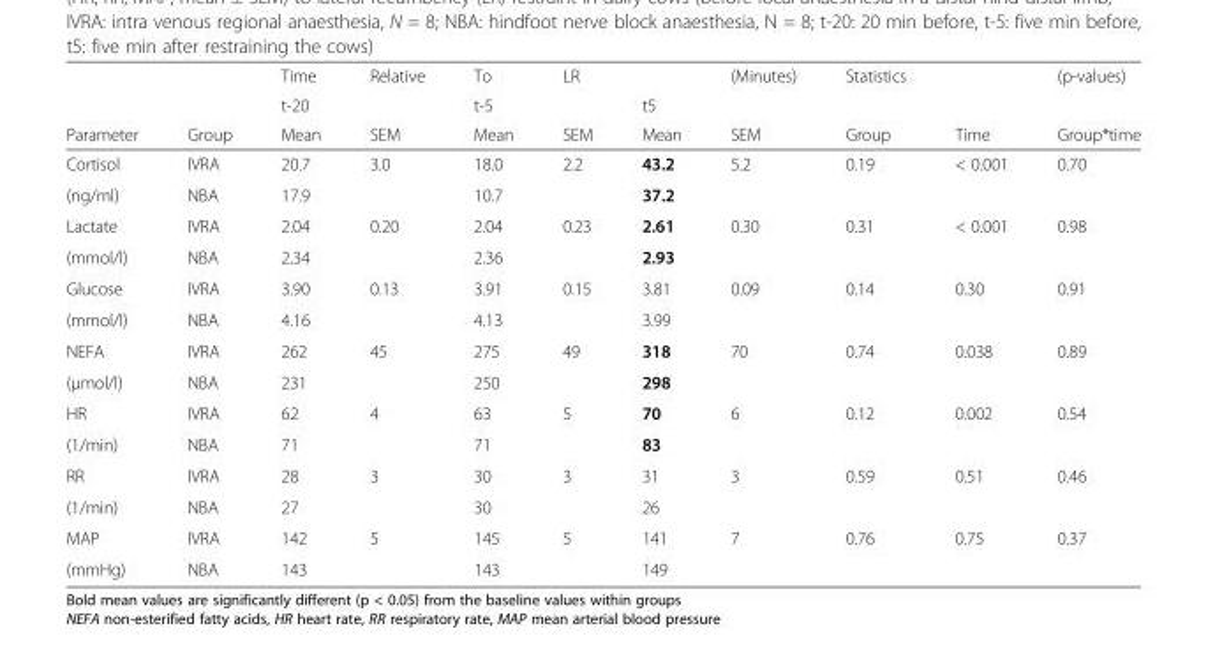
<table><thead><tr><td rowspan="3">Parameter</td><td rowspan="3">Group</td><td rowspan="3">Time t-20 Mean</td><td rowspan="3">Relative SEM</td><td rowspan="3">To t-5 Mean</td><td rowspan="3">LR SEM</td><td rowspan="3">t5 Mean</td><td rowspan="3">(Minutes) SEM</td><td rowspan="3">Statistics Group</td><td rowspan="3">Time</td><td rowspan="3">(p-values) Group*time</td></tr><tr></tr><tr></tr></thead><tbody><tr><td>Cortisol</td><td>IVRA</td><td>20.7</td><td>3.0</td><td>18.0</td><td>2.2</td><td>43.2</td><td>5.2</td><td>0.19</td><td>&lt; 0.001</td><td>0.70</td></tr><tr><td>(ng/ml)</td><td>NBA</td><td>17.9</td><td></td><td>10.7</td><td></td><td>37.2</td><td></td><td></td><td></td><td></td></tr><tr><td>Lactate</td><td>IVRA</td><td>2.04</td><td>0.20</td><td>2.04</td><td>0.23</td><td>2.61</td><td>0.30</td><td>0.31</td><td>&lt; 0.001</td><td>0.98</td></tr><tr><td>(mmol/l)</td><td>NBA</td><td>2.34</td><td></td><td>2.36</td><td></td><td>2.93</td><td></td><td></td><td></td><td></td></tr><tr><td>Glucose</td><td>IVRA</td><td>3.90</td><td>0.13</td><td>3.91</td><td>0.15</td><td>3.81</td><td>0.09</td><td>0.14</td><td>0.30</td><td>0.91</td></tr><tr><td>(mmol/l)</td><td>NBA</td><td>4.16</td><td></td><td>4.13</td><td></td><td>3.99</td><td></td><td></td><td></td><td></td></tr><tr><td>NEFA</td><td>IVRA</td><td>262</td><td>45</td><td>275</td><td>49</td><td>318</td><td>70</td><td>0.74</td><td>0.038</td><td>0.89</td></tr><tr><td>(μmol/l)</td><td>NBA</td><td>231</td><td></td><td>250</td><td></td><td>298</td><td></td><td></td><td></td><td></td></tr><tr><td>HR</td><td>IVRA</td><td>62</td><td>4</td><td>63</td><td>5</td><td>70</td><td>6</td><td>0.12</td><td>0.002</td><td>0.54</td></tr><tr><td>(1/min)</td><td>NBA</td><td>71</td><td></td><td>71</td><td></td><td>83</td><td></td><td></td><td></td><td></td></tr><tr><td>RR</td><td>IVRA</td><td>28</td><td>3</td><td>30</td><td>3</td><td>31</td><td>3</td><td>0.59</td><td>0.51</td><td>0.46</td></tr><tr><td>(1/min)</td><td>NBA</td><td>27</td><td></td><td>30</td><td></td><td>26</td><td></td><td></td><td></td><td></td></tr><tr><td>MAP</td><td>IVRA</td><td>142</td><td>5</td><td>145</td><td>5</td><td>141</td><td>7</td><td>0.76</td><td>0.75</td><td>0.37</td></tr><tr><td>(mmHg)</td><td>NBA</td><td>143</td><td></td><td>143</td><td></td><td>149</td><td></td><td></td><td></td><td></td></tr></tbody></table>